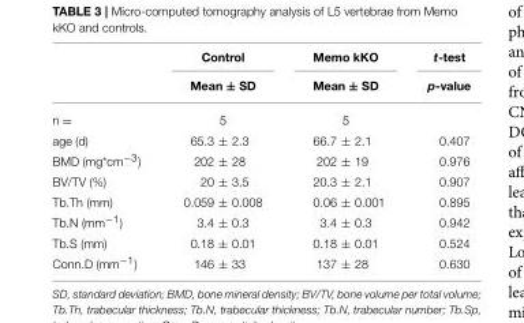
<table><thead><tr><td rowspan="2"></td><td rowspan="2">Control Mean ± SD</td><td rowspan="2">Memo kKO Mean ± SD</td><td rowspan="2">t-test p-value</td></tr><tr></tr></thead><tbody><tr><td>n =</td><td>5</td><td>5</td><td></td></tr><tr><td>age (d)</td><td>65.3 ± 2.3</td><td>66.7 ± 2.1</td><td>0.407</td></tr><tr><td>BMD (mg*cm<sup>−3</sup>)</td><td>202 ± 28</td><td>202 ± 19</td><td>0.976</td></tr><tr><td>BV/TV (%)</td><td>20 ± 3.5</td><td>20.3 ± 2.1</td><td>0.907</td></tr><tr><td>Tb.Th (mm)</td><td>0.059 ± 0.008</td><td>0.06 ± 0.001</td><td>0.895</td></tr><tr><td>Tb.N (mm<sup>−1</sup>)</td><td>3.4 ± 0.3</td><td>3.4 ± 0.3</td><td>0.942</td></tr><tr><td>Tb.S (mm)</td><td>0.18 ± 0.01</td><td>0.18 ± 0.01</td><td>0.524</td></tr><tr><td>Conn.D (mm<sup>−1</sup>)</td><td>146 ± 33</td><td>137 ± 28</td><td>0.630</td></tr></tbody></table>